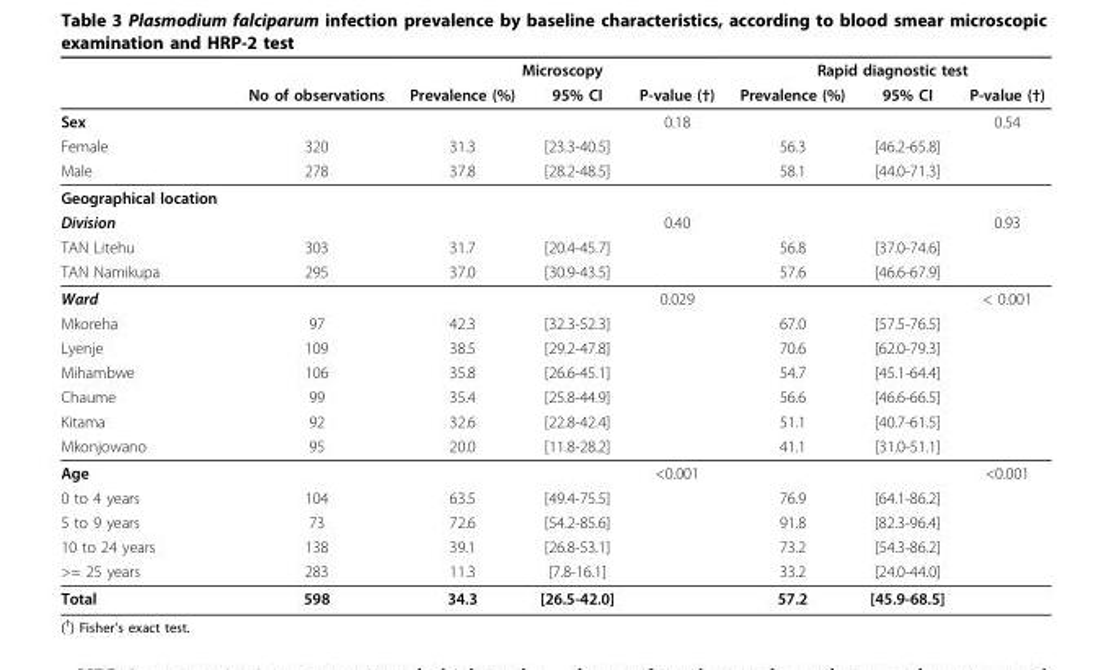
<table><thead><tr><td rowspan="2"></td><td rowspan="2">No of observations</td><td colspan="3">Microscopy</td><td colspan="3">Rapid diagnostic test</td></tr><tr><td>Prevalence (%)</td><td>95% CI</td><td>P-value (†)</td><td>Prevalence (%)</td><td>95% CI</td><td>P-value (†)</td></tr></thead><tbody><tr><td>Sex</td><td></td><td></td><td></td><td>0.18</td><td></td><td></td><td>0.54</td></tr><tr><td>Female</td><td>320</td><td>31.3</td><td>[23.3-40.5]</td><td></td><td>56.3</td><td>[46.2-65.8]</td><td></td></tr><tr><td>Male</td><td>278</td><td>37.8</td><td>[28.2-48.5]</td><td></td><td>58.1</td><td>[44.0-71.3]</td><td></td></tr><tr><td colspan="8">Geographical location</td></tr><tr><td>Division</td><td></td><td></td><td></td><td>0.40</td><td></td><td></td><td>0.93</td></tr><tr><td>TAN Litehu</td><td>303</td><td>31.7</td><td>[20.4-45.7]</td><td></td><td>56.8</td><td>[37.0-74.6]</td><td></td></tr><tr><td>TAN Namikupa</td><td>295</td><td>37.0</td><td>[30.9-43.5]</td><td></td><td>57.6</td><td>[46.6-67.9]</td><td></td></tr><tr><td>Ward</td><td></td><td></td><td></td><td>0.029</td><td></td><td></td><td>&lt; 0.001</td></tr><tr><td>Mkoreha</td><td>97</td><td>42.3</td><td>[32.3-52.3]</td><td></td><td>67.0</td><td>[57.5-76.5]</td><td></td></tr><tr><td>Lyenje</td><td>109</td><td>38.5</td><td>[29.2-47.8]</td><td></td><td>70.6</td><td>[62.0-79.3]</td><td></td></tr><tr><td>Mihambwe</td><td>106</td><td>35.8</td><td>[26.6-45.1]</td><td></td><td>54.7</td><td>[45.1-64.4]</td><td></td></tr><tr><td>Chaume</td><td>99</td><td>35.4</td><td>[25.8-44.9]</td><td></td><td>56.6</td><td>[46.6-66.5]</td><td></td></tr><tr><td>Kitama</td><td>92</td><td>32.6</td><td>[22.8-42.4]</td><td></td><td>51.1</td><td>[40.7-61.5]</td><td></td></tr><tr><td>Mkonjowano</td><td>95</td><td>20.0</td><td>[11.8-28.2]</td><td></td><td>41.1</td><td>[31.0-51.1]</td><td></td></tr><tr><td>Age</td><td></td><td></td><td></td><td>&lt;0.001</td><td></td><td></td><td>&lt;0.001</td></tr><tr><td>0 to 4 years</td><td>104</td><td>63.5</td><td>[49.4-75.5]</td><td></td><td>76.9</td><td>[64.1-86.2]</td><td></td></tr><tr><td>5 to 9 years</td><td>73</td><td>72.6</td><td>[54.2-85.6]</td><td></td><td>91.8</td><td>[82.3-96.4]</td><td></td></tr><tr><td>10 to 24 years</td><td>138</td><td>39.1</td><td>[26.8-53.1]</td><td></td><td>73.2</td><td>[54.3-86.2]</td><td></td></tr><tr><td>&gt;= 25 years</td><td>283</td><td>11.3</td><td>[7.8-16.1]</td><td></td><td>33.2</td><td>[24.0-44.0]</td><td></td></tr><tr><td>Total</td><td>598</td><td>34.3</td><td>[26.5-42.0]</td><td></td><td>57.2</td><td>[45.9-68.5]</td><td></td></tr></tbody></table>